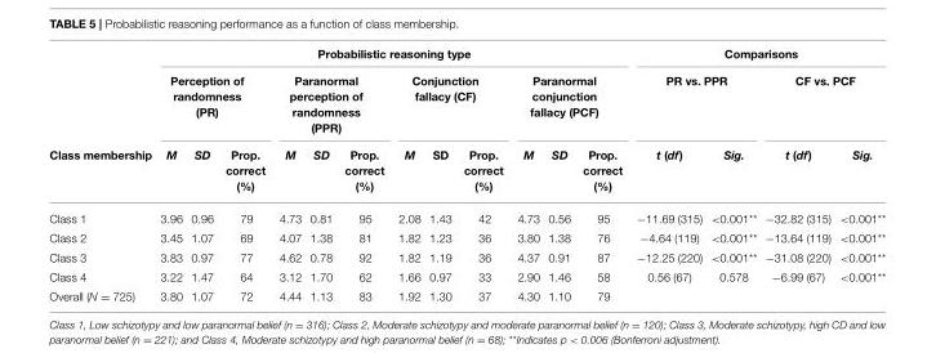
<table><thead><tr><td rowspan="3">Class membership</td><td colspan="12">Probabilistic reasoning type</td><td colspan="4">Comparisons</td></tr><tr><td colspan="3">Perception of randomness (PR)</td><td colspan="3">Paranormal perception of randomness (PPR)</td><td colspan="3">Conjunction fallacy (CF)</td><td colspan="3">Paranormal conjunction fallacy (PCF)</td><td colspan="2">PR vs. PPR</td><td colspan="2">CF vs. PCF</td></tr><tr><td>M</td><td>SD</td><td>Prop. correct (%)</td><td>M</td><td>SD</td><td>Prop. correct (%)</td><td>M</td><td>SD</td><td>Prop. correct (%)</td><td>M</td><td>SD</td><td>Prop. correct (%)</td><td>t (df)</td><td>Sig.</td><td>t (df)</td><td>Sig.</td></tr></thead><tbody><tr><td>Class 1</td><td>3.96</td><td>0.96</td><td>79</td><td>4.73</td><td>0.81</td><td>95</td><td>2.08</td><td>1.43</td><td>42</td><td>4.73</td><td>0.56</td><td>95</td><td>−11.69 (315)</td><td>&lt;0.001**</td><td>−32.82 (315)</td><td>&lt;0.001**</td></tr><tr><td>Class 2</td><td>3.45</td><td>1.07</td><td>69</td><td>4.07</td><td>1.38</td><td>81</td><td>1.82</td><td>1.23</td><td>36</td><td>3.80</td><td>1.38</td><td>76</td><td>−4.64 (119)</td><td>&lt;0.001**</td><td>−13.64 (119)</td><td>&lt;0.001**</td></tr><tr><td>Class 3</td><td>3.83</td><td>0.97</td><td>77</td><td>4.62</td><td>0.78</td><td>92</td><td>1.82</td><td>1.19</td><td>36</td><td>4.37</td><td>0.91</td><td>87</td><td>−12.25 (220)</td><td>&lt;0.001**</td><td>−31.08 (220)</td><td>&lt;0.001**</td></tr><tr><td>Class 4</td><td>3.22</td><td>1.47</td><td>64</td><td>3.12</td><td>1.70</td><td>62</td><td>1.66</td><td>0.97</td><td>33</td><td>2.90</td><td>1.46</td><td>58</td><td>0.56 (67)</td><td>0.578</td><td>−6.99 (67)</td><td>&lt;0.001**</td></tr><tr><td>Overall (N = 725)</td><td>3.80</td><td>1.07</td><td>72</td><td>4.44</td><td>1.13</td><td>83</td><td>1.92</td><td>1.30</td><td>37</td><td>4.30</td><td>1.10</td><td>79</td><td></td><td></td><td></td><td></td></tr></tbody></table>